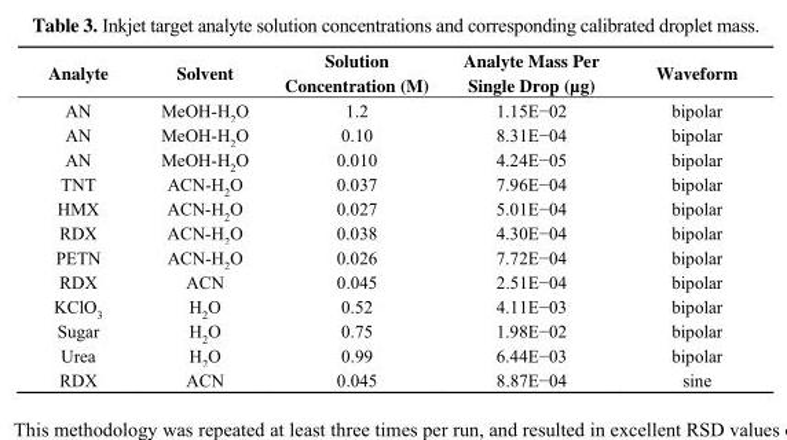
<table><thead><tr><td>Analyte</td><td>Solvent</td><td>Solution Concentration (M)</td><td>Analyte Mass Per Single Drop (µg)</td><td>Waveform</td></tr></thead><tbody><tr><td>AN</td><td>MeOH-H<sub>2</sub>O</td><td>1.2</td><td>1.15E−02</td><td>bipolar</td></tr><tr><td>AN</td><td>MeOH-H<sub>2</sub>O</td><td>0.10</td><td>8.31E−04</td><td>bipolar</td></tr><tr><td>AN</td><td>MeOH-H<sub>2</sub>O</td><td>0.010</td><td>4.24E−05</td><td>bipolar</td></tr><tr><td>TNT</td><td>ACN-H<sub>2</sub>O</td><td>0.037</td><td>7.96E−04</td><td>bipolar</td></tr><tr><td>HMX</td><td>ACN-H<sub>2</sub>O</td><td>0.027</td><td>5.01E−04</td><td>bipolar</td></tr><tr><td>RDX</td><td>ACN-H<sub>2</sub>O</td><td>0.038</td><td>4.30E−04</td><td>bipolar</td></tr><tr><td>PETN</td><td>ACN-H<sub>2</sub>O</td><td>0.026</td><td>7.72E−04</td><td>bipolar</td></tr><tr><td>RDX</td><td>ACN</td><td>0.045</td><td>2.51E−04</td><td>bipolar</td></tr><tr><td>KClO<sub>3</sub></td><td>H<sub>2</sub>O</td><td>0.52</td><td>4.11E−03</td><td>bipolar</td></tr><tr><td>Sugar</td><td>H<sub>2</sub>O</td><td>0.75</td><td>1.98E−02</td><td>bipolar</td></tr><tr><td>Urea</td><td>H<sub>2</sub>O</td><td>0.99</td><td>6.44E−03</td><td>bipolar</td></tr><tr><td>RDX</td><td>ACN</td><td>0.045</td><td>8.87E−04</td><td>sine</td></tr></tbody></table>